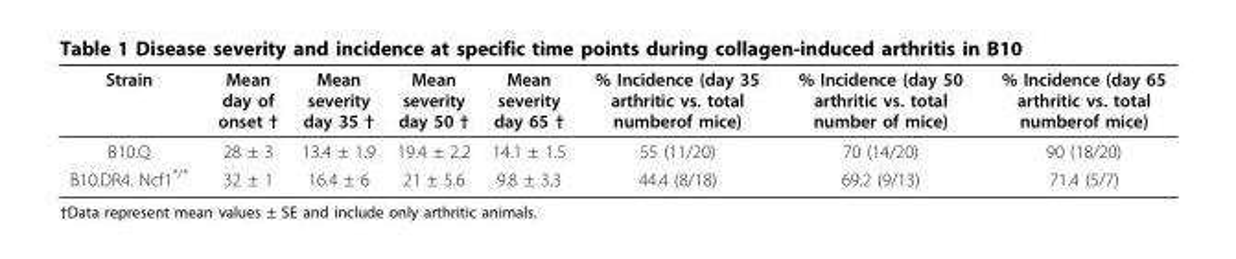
<table><thead><tr><td>Strain</td><td>Mean day of onset †</td><td>Mean severity day 35 †</td><td>Mean severity day 50 †</td><td>Mean severity day 65 †</td><td>% Incidence (day 35 arthritic vs. total numberof mice)</td><td>% Incidence (day 50 arthritic vs. total number of mice)</td><td>% Incidence (day 65 arthritic vs. total numberof mice)</td></tr></thead><tbody><tr><td>B10.Q</td><td>28 ± 3</td><td>13.4 ± 1.9</td><td>19.4 ± 2.2</td><td>14.1 ± 1.5</td><td>55 (11/20)</td><td>70 (14/20)</td><td>90 (18/20)</td></tr><tr><td>B10.DR4. Ncf1<sup>*/*</sup></td><td>32 ± 1</td><td>16.4 ± 6</td><td>21 ± 5.6</td><td>9.8 ± 3.3</td><td>44.4 (8/18)</td><td>69.2 (9/13)</td><td>71.4 (5/7)</td></tr></tbody></table>